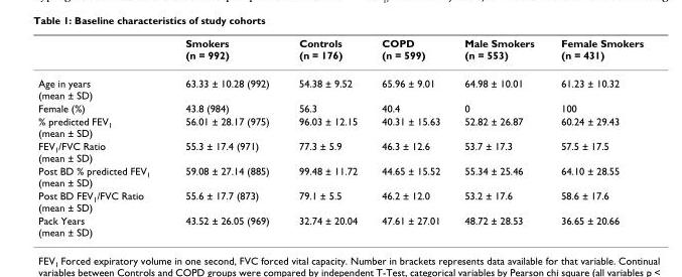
<table><thead><tr><td></td><td>Smokers (n = 992)</td><td>Controls (n = 176)</td><td>COPD (n = 599)</td><td>Male Smokers (n = 553)</td><td>Female Smokers (n = 431)</td></tr></thead><tbody><tr><td>Age in years (mean ± SD)</td><td>63.33 ± 10.28 (992)</td><td>54.38 ± 9.52</td><td>65.96 ± 9.01</td><td>64.98 ± 10.01</td><td>61.23 ± 10.32</td></tr><tr><td>Female (%)</td><td>43.8 (984)</td><td>56.3</td><td>40.4</td><td>0</td><td>100</td></tr><tr><td>% predicted FEV<sub>1</sub> (mean ± SD)</td><td>56.01 ± 28.17 (975)</td><td>96.03 ± 12.15</td><td>40.31 ± 15.63</td><td>52.82 ± 26.87</td><td>60.24 ± 29.43</td></tr><tr><td>FEV<sub>1</sub>/FVC Ratio (mean ± SD)</td><td>55.3 ± 17.4 (971)</td><td>77.3 ± 5.9</td><td>46.3 ± 12.6</td><td>53.7 ± 17.3</td><td>57.5 ± 17.5</td></tr><tr><td>Post BD % predicted FEV<sub>1</sub> (mean ± SD)</td><td>59.08 ± 27.14 (885)</td><td>99.48 ± 11.72</td><td>44.65 ± 15.52</td><td>55.34 ± 25.46</td><td>64.10 ± 28.55</td></tr><tr><td>Post BD FEV<sub>1</sub>/FVC Ratio (mean ± SD)</td><td>55.6 ± 17.7 (873)</td><td>79.1 ± 5.5</td><td>46.2 ± 12.0</td><td>53.2 ± 17.6</td><td>58.6 ± 17.6</td></tr><tr><td>Pack Years (mean ± SD)</td><td>43.52 ± 26.05 (969)</td><td>32.74 ± 20.04</td><td>47.61 ± 27.01</td><td>48.72 ± 28.53</td><td>36.65 ± 20.66</td></tr></tbody></table>